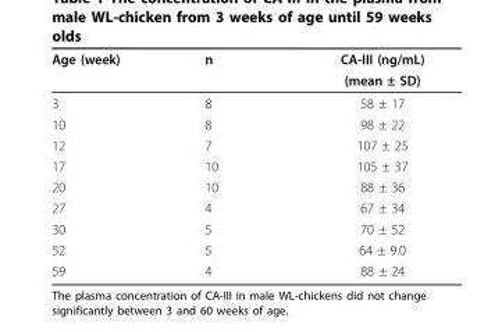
<table><thead><tr><td rowspan="2">Age (week)</td><td rowspan="2">n</td><td rowspan="2">CA-III (ng/mL) (mean ± SD)</td></tr><tr></tr></thead><tbody><tr><td>3</td><td>8</td><td>58 ± 17</td></tr><tr><td>10</td><td>8</td><td>98 ± 22</td></tr><tr><td>12</td><td>7</td><td>107 ± 25</td></tr><tr><td>17</td><td>10</td><td>105 ± 37</td></tr><tr><td>20</td><td>10</td><td>88 ± 36</td></tr><tr><td>27</td><td>4</td><td>67 ± 34</td></tr><tr><td>30</td><td>5</td><td>70 ± 52</td></tr><tr><td>52</td><td>5</td><td>64 ± 9.0</td></tr><tr><td>59</td><td>4</td><td>88 ± 24</td></tr></tbody></table>